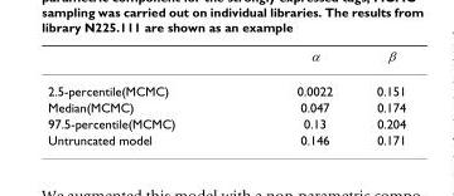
<table><thead><tr><td></td><td>α</td><td>β</td></tr></thead><tbody><tr><td>2.5-percentile(MCMC)</td><td>0.0022</td><td>0.151</td></tr><tr><td>Median(MCMC)</td><td>0.047</td><td>0.174</td></tr><tr><td>97.5-percentile(MCMC)</td><td>0.13</td><td>0.204</td></tr><tr><td>Untruncated model</td><td>0.146</td><td>0.171</td></tr></tbody></table>